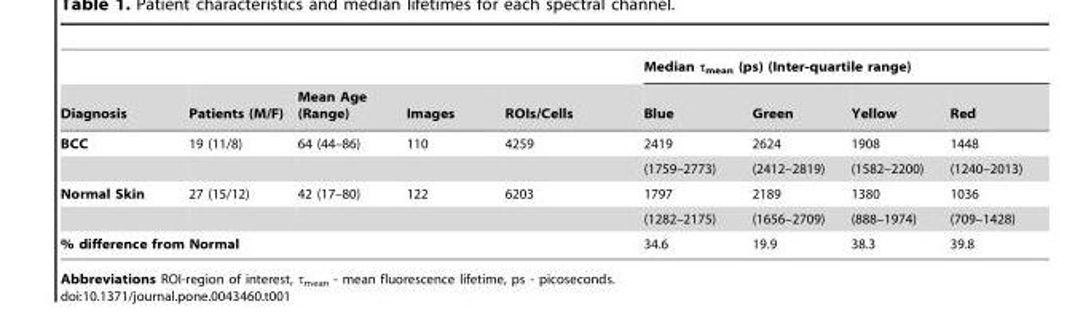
<table><thead><tr><td rowspan="2">Diagnosis</td><td rowspan="2">Patients (M/F)</td><td rowspan="2">Mean Age (Range)</td><td rowspan="2">Images</td><td rowspan="2">ROIs/Cells</td><td colspan="4">Median τ<sub>mean</sub> (ps) (Inter-quartile range)</td></tr><tr><td>Blue</td><td>Green</td><td>Yellow</td><td>Red</td></tr></thead><tbody><tr><td rowspan="2">BCC</td><td>19 (11/8)</td><td>64 (44–86)</td><td>110</td><td>4259</td><td>2419</td><td>2624</td><td>1908</td><td>1448</td></tr><tr><td></td><td></td><td></td><td></td><td>(1759–2773)</td><td>(2412–2819)</td><td>(1582–2200)</td><td>(1240–2013)</td></tr><tr><td rowspan="2">Normal Skin</td><td>27 (15/12)</td><td>42 (17–80)</td><td>122</td><td>6203</td><td>1797</td><td>2189</td><td>1380</td><td>1036</td></tr><tr><td></td><td></td><td></td><td></td><td>(1282–2175)</td><td>(1656–2709)</td><td>(888–1974)</td><td>(709–1428)</td></tr><tr><td colspan="2">% difference from Normal</td><td></td><td></td><td></td><td>34.6</td><td>19.9</td><td>38.3</td><td>39.8</td></tr></tbody></table>